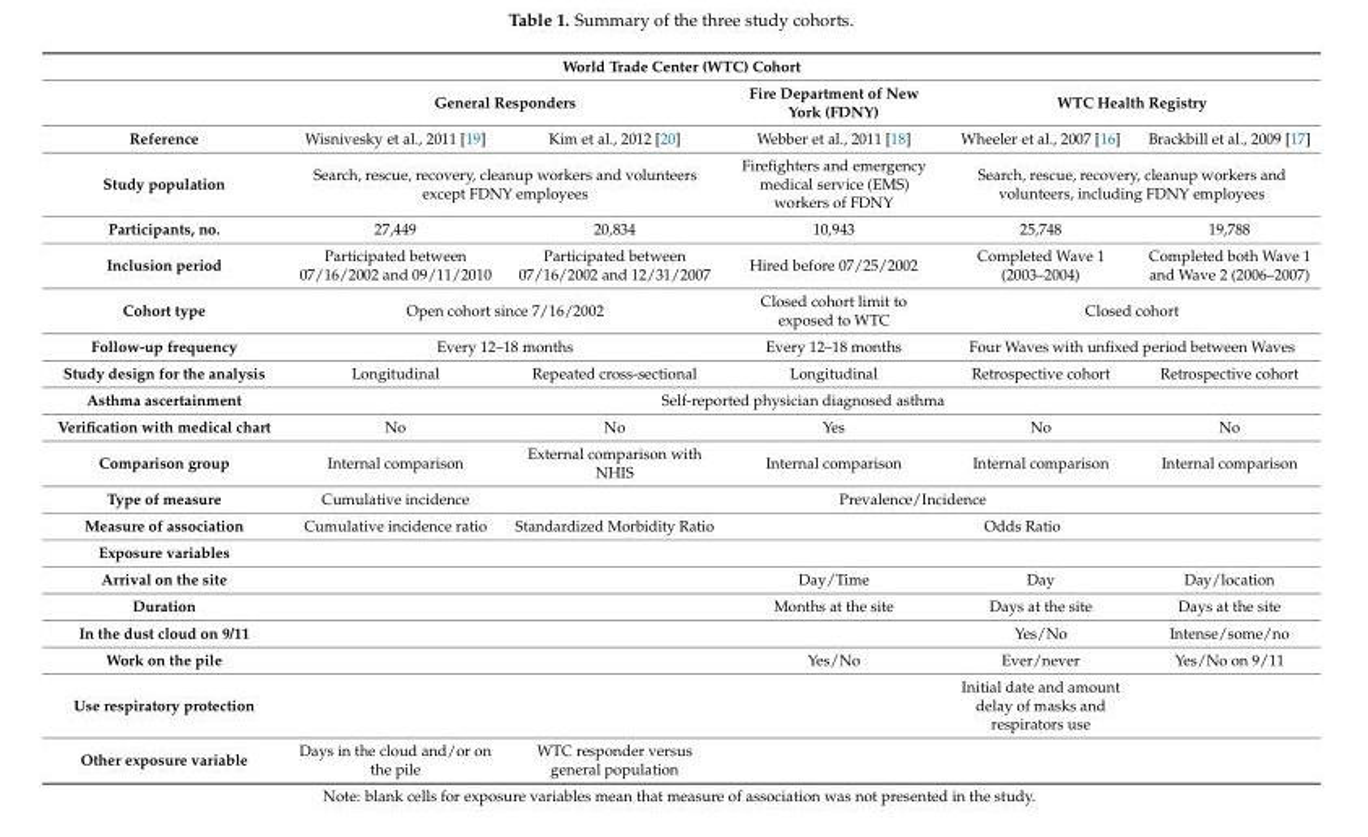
<table><thead><tr><td colspan="6">World Trade Center (WTC) Cohort</td></tr><tr><td rowspan="2">Reference</td><td colspan="2">General Responders</td><td rowspan="2">Fire Department of New York (FDNY) Webber et al., 2011 [18]</td><td colspan="2">WTC Health Registry</td></tr><tr><td>Wisnivesky et al., 2011 [19]</td><td>Kim et al., 2012 [20]</td><td>Wheeler et al., 2007 [16]</td><td>Brackbill et al., 2009 [17]</td></tr></thead><tbody><tr><td>Study population</td><td colspan="2">Search, rescue, recovery, cleanup workers and volunteers except FDNY employees</td><td>Firefighters and emergency medical service (EMS) workers of FDNY</td><td colspan="2">Search, rescue, recovery, cleanup workers and volunteers, including FDNY employees</td></tr><tr><td>Participants, no.</td><td>27,449</td><td>20,834</td><td>10,943</td><td>25,748</td><td>19,788</td></tr><tr><td>Inclusion period</td><td>Participated between 07/16/2002 and 09/11/2010</td><td>Participated between 07/16/2002 and 12/31/2007</td><td>Hired before 07/25/2002</td><td>Completed Wave 1 (2003–2004)</td><td>Completed both Wave 1 and Wave 2 (2006–2007)</td></tr><tr><td>Cohort type</td><td colspan="2">Open cohort since 7/16/2002</td><td>Closed cohort limit to exposed to WTC</td><td colspan="2">Closed cohort</td></tr><tr><td>Follow-up frequency</td><td colspan="2">Every 12–18 months</td><td>Every 12–18 months</td><td colspan="2">Four Waves with unfixed period between Waves</td></tr><tr><td>Study design for the analysis</td><td>Longitudinal</td><td>Repeated cross-sectional</td><td>Longitudinal</td><td>Retrospective cohort</td><td>Retrospective cohort</td></tr><tr><td>Asthma ascertainment</td><td colspan="5">Self-reported physician diagnosed asthma</td></tr><tr><td>Verification with medical chart</td><td>No</td><td>No</td><td>Yes</td><td>No</td><td>No</td></tr><tr><td>Comparison group</td><td>Internal comparison</td><td>External comparison with NHIS</td><td>Internal comparison</td><td>Internal comparison</td><td>Internal comparison</td></tr><tr><td>Type of measure</td><td>Cumulative incidence</td><td colspan="4">Prevalence/Incidence</td></tr><tr><td>Measure of association</td><td>Cumulative incidence ratio</td><td>Standardized Morbidity Ratio</td><td colspan="3">Odds Ratio</td></tr><tr><td colspan="6">Exposure variables</td></tr><tr><td>Arrival on the site</td><td></td><td></td><td>Day/Time</td><td>Day</td><td>Day/location</td></tr><tr><td>Duration</td><td></td><td></td><td>Months at the site</td><td>Days at the site</td><td>Days at the site</td></tr><tr><td>In the dust cloud on 9/11</td><td></td><td></td><td></td><td>Yes/No</td><td>Intense/some/no</td></tr><tr><td>Work on the pile</td><td></td><td></td><td>Yes/No</td><td>Ever/never</td><td>Yes/No on 9/11</td></tr><tr><td>Use respiratory protection</td><td></td><td></td><td></td><td>Initial date and amount delay of masks and respirators use</td><td></td></tr><tr><td>Other exposure variable</td><td>Days in the cloud and/or on the pile</td><td>WTC responder versus general population</td><td></td><td></td><td></td></tr></tbody></table>